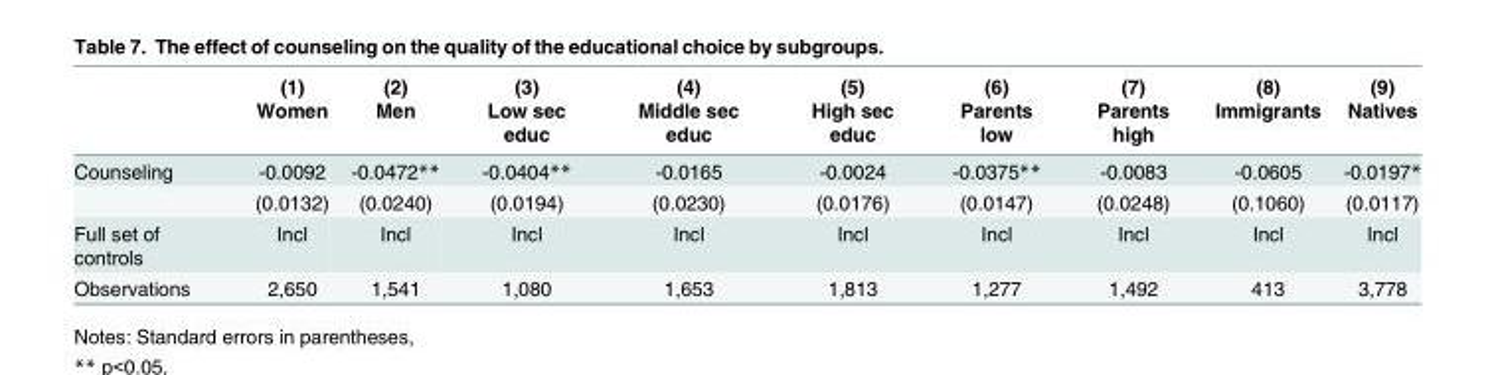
<table><thead><tr><td rowspan="2"></td><td rowspan="2">(1) Women</td><td rowspan="2">(2) Men</td><td rowspan="2">(3) Low sec educ</td><td rowspan="2">(4) Middle sec educ</td><td rowspan="2">(5) High sec educ</td><td rowspan="2">(6) Parents low</td><td rowspan="2">(7) Parents high</td><td rowspan="2">(8) Immigrants</td><td rowspan="2">(9) Natives</td></tr><tr></tr></thead><tbody><tr><td rowspan="2">Counseling</td><td>-0.0092</td><td>-0.0472**</td><td>-0.0404**</td><td>-0.0165</td><td>-0.0024</td><td>-0.0375**</td><td>-0.0083</td><td>-0.0605</td><td>-0.0197*</td></tr><tr><td>(0.0132)</td><td>(0.0240)</td><td>(0.0194)</td><td>(0.0230)</td><td>(0.0176)</td><td>(0.0147)</td><td>(0.0248)</td><td>(0.1060)</td><td>(0.0117)</td></tr><tr><td>Full set of controls</td><td>Incl</td><td>Incl</td><td>Incl</td><td>Incl</td><td>Incl</td><td>Incl</td><td>Incl</td><td>Incl</td><td>Incl</td></tr><tr><td>Observations</td><td>2,650</td><td>1,541</td><td>1,080</td><td>1,653</td><td>1,813</td><td>1,277</td><td>1,492</td><td>413</td><td>3,778</td></tr></tbody></table>